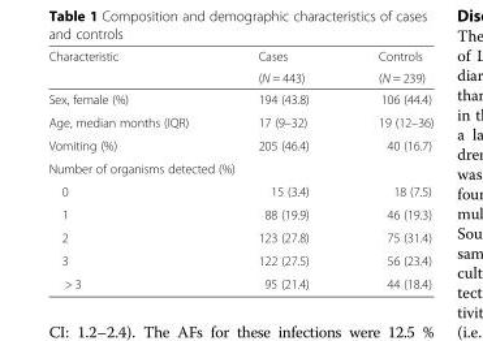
<table><thead><tr><td rowspan="2">Characteristic</td><td rowspan="2">Cases (N = 443)</td><td rowspan="2">Controls (N = 239)</td></tr><tr></tr></thead><tbody><tr><td>Sex, female (%)</td><td>194 (43.8)</td><td>106 (44.4)</td></tr><tr><td>Age, median months (IQR)</td><td>17 (9–32)</td><td>19 (12–36)</td></tr><tr><td>Vomiting (%)</td><td>205 (46.4)</td><td>40 (16.7)</td></tr><tr><td colspan="3">Number of organisms detected (%)</td></tr><tr><td>0</td><td>15 (3.4)</td><td>18 (7.5)</td></tr><tr><td>1</td><td>88 (19.9)</td><td>46 (19.3)</td></tr><tr><td>2</td><td>123 (27.8)</td><td>75 (31.4)</td></tr><tr><td>3</td><td>122 (27.5)</td><td>56 (23.4)</td></tr><tr><td>&gt; 3</td><td>95 (21.4)</td><td>44 (18.4)</td></tr></tbody></table>